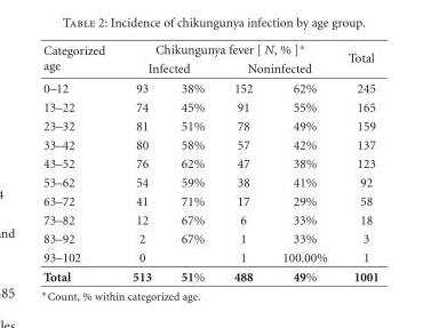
<table><thead><tr><td rowspan="3">Categorized age 0–12</td><td colspan="4">Chikungunya fever [ N, % ]∗</td><td rowspan="3">Total 245</td></tr><tr><td colspan="2">Infected</td><td colspan="2">Noninfected</td></tr><tr><td>93</td><td>38%</td><td>152</td><td>62%</td></tr></thead><tbody><tr><td>13–22</td><td>74</td><td>45%</td><td>91</td><td>55%</td><td>165</td></tr><tr><td>23–32</td><td>81</td><td>51%</td><td>78</td><td>49%</td><td>159</td></tr><tr><td>33–42</td><td>80</td><td>58%</td><td>57</td><td>42%</td><td>137</td></tr><tr><td>43–52</td><td>76</td><td>62%</td><td>47</td><td>38%</td><td>123</td></tr><tr><td>53–62</td><td>54</td><td>59%</td><td>38</td><td>41%</td><td>92</td></tr><tr><td>63–72</td><td>41</td><td>71%</td><td>17</td><td>29%</td><td>58</td></tr><tr><td>73–82</td><td>12</td><td>67%</td><td>6</td><td>33%</td><td>18</td></tr><tr><td>83–92</td><td>2</td><td>67%</td><td>1</td><td>33%</td><td>3</td></tr><tr><td>93–102</td><td>0</td><td></td><td>1</td><td>100.00%</td><td>1</td></tr><tr><td>Total</td><td>513</td><td>51%</td><td>488</td><td>49%</td><td>1001</td></tr></tbody></table>